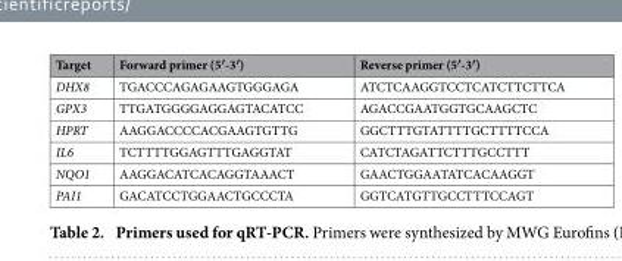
<table><thead><tr><td>Target</td><td>Forward primer (5′-3′)</td><td>Reverse primer (5′-3′)</td></tr></thead><tbody><tr><td>DHX8</td><td>TGACCCAGAGAAGTGGGAGA</td><td>ATCTCAAGGTCCTCATCTTCTTCA</td></tr><tr><td>GPX3</td><td>TTGATGGGGAGGAGTACATCC</td><td>AGACCGAATGGTGCAAGCTC</td></tr><tr><td>HPRT</td><td>AAGGACCCCACGAAGTGTTG</td><td>GGCTTTGTATTTTGCTTTTCCA</td></tr><tr><td>IL6</td><td>TCTTTTGGAGTTTGAGGTAT</td><td>CATCTAGATTCTTTGCCTTT</td></tr><tr><td>NQO1</td><td>AAGGACATCACAGGTAAACT</td><td>GAACTGGAATATCACAAGGT</td></tr><tr><td>PAI1</td><td>GACATCCTGGAACTGCCCTA</td><td>GGTCATGTTGCCTTTCCAGT</td></tr></tbody></table>